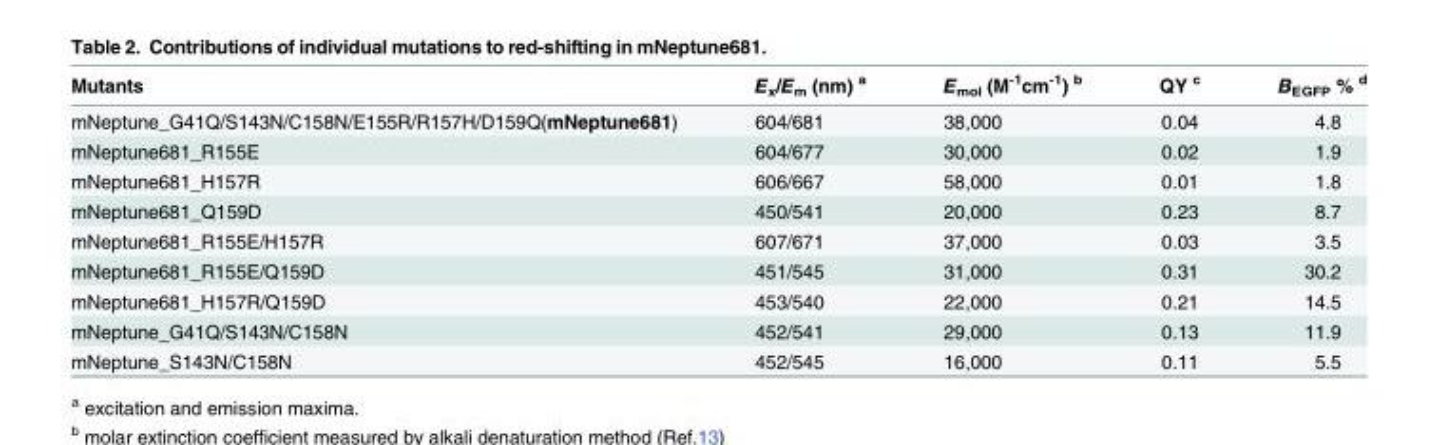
<table><thead><tr><td>Mutants</td><td>E<sub>x</sub>/E<sub>m</sub> (nm) <sup>a</sup></td><td>E<sub>mol</sub> (M<sup>-1</sup>cm<sup>-1</sup>) <sup>b</sup></td><td>QY <sup>c</sup></td><td>B<sub>EGFP</sub> % <sup>d</sup></td></tr></thead><tbody><tr><td>mNeptune_G41Q/S143N/C158N/E155R/R157H/D159Q(mNeptune681)</td><td>604/681</td><td>38,000</td><td>0.04</td><td>4.8</td></tr><tr><td>mNeptune681_R155E</td><td>604/677</td><td>30,000</td><td>0.02</td><td>1.9</td></tr><tr><td>mNeptune681_H157R</td><td>606/667</td><td>58,000</td><td>0.01</td><td>1.8</td></tr><tr><td>mNeptune681_Q159D</td><td>450/541</td><td>20,000</td><td>0.23</td><td>8.7</td></tr><tr><td>mNeptune681_R155E/H157R</td><td>607/671</td><td>37,000</td><td>0.03</td><td>3.5</td></tr><tr><td>mNeptune681_R155E/Q159D</td><td>451/545</td><td>31,000</td><td>0.31</td><td>30.2</td></tr><tr><td>mNeptune681_H157R/Q159D</td><td>453/540</td><td>22,000</td><td>0.21</td><td>14.5</td></tr><tr><td>mNeptune_G41Q/S143N/C158N</td><td>452/541</td><td>29,000</td><td>0.13</td><td>11.9</td></tr><tr><td>mNeptune_S143N/C158N</td><td>452/545</td><td>16,000</td><td>0.11</td><td>5.5</td></tr></tbody></table>